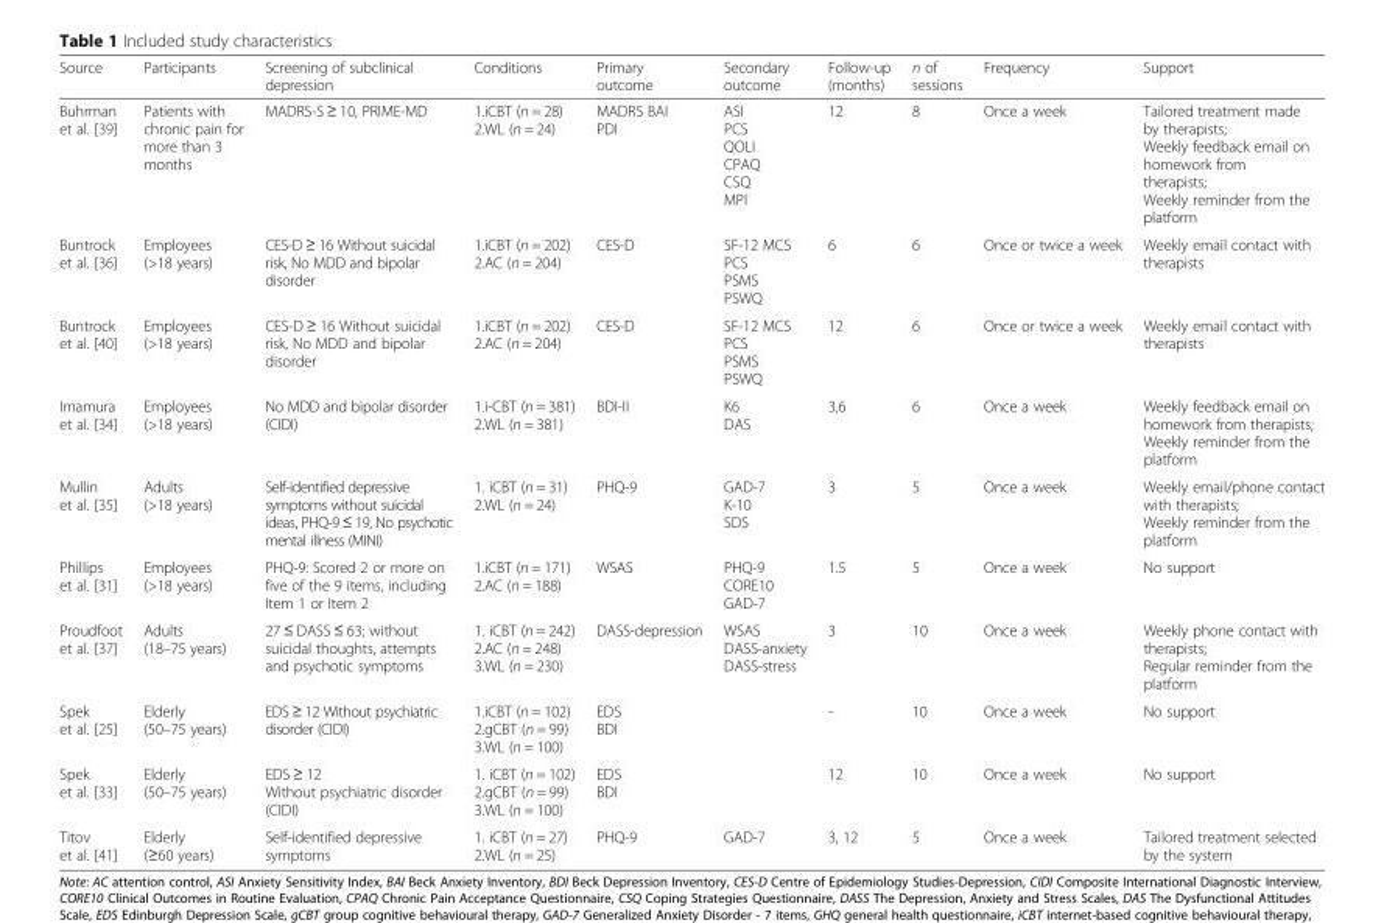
<table><thead><tr><td>Source</td><td>Participants</td><td>Screening of subclinical depression</td><td>Conditions</td><td>Primary outcome</td><td>Secondary outcome</td><td>Follow-up (months)</td><td>n of sessions</td><td>Frequency</td><td>Support</td></tr></thead><tbody><tr><td>Buhrman et al. [39]</td><td>Patients with chronic pain for more than 3 months</td><td>MADRS-S ≥ 10, PRIME-MD</td><td>1.iCBT (n = 28) 2.WL (n = 24)</td><td>MADRS BAI PDI</td><td>ASI PCS QOLI CPAQ CSQ MPI</td><td>12</td><td>8</td><td>Once a week</td><td>Tailored treatment made by therapists; Weekly feedback email on homework from therapists; Weekly reminder from the platform</td></tr><tr><td>Buntrock et al. [36]</td><td>Employees (&gt;18 years)</td><td>CES-D ≥ 16 Without suicidal risk, No MDD and bipolar disorder</td><td>1.iCBT (n = 202) 2.AC (n = 204)</td><td>CES-D</td><td>SF-12 MCS PCS PSMS PSWQ</td><td>6</td><td>6</td><td>Once or twice a week</td><td>Weekly email contact with therapists</td></tr><tr><td>Buntrock et al. [40]</td><td>Employees (&gt;18 years)</td><td>CES-D ≥ 16 Without suicidal risk, No MDD and bipolar disorder</td><td>1.iCBT (n = 202) 2.AC (n = 204)</td><td>CES-D</td><td>SF-12 MCS PCS PSMS PSWQ</td><td>12</td><td>6</td><td>Once or twice a week</td><td>Weekly email contact with therapists</td></tr><tr><td>Imamura et al. [34]</td><td>Employees (&gt;18 years)</td><td>No MDD and bipolar disorder (CIDI)</td><td>1.i-CBT (n = 381) 2.WL (n = 381)</td><td>BDI-II</td><td>K6 DAS</td><td>3,6</td><td>6</td><td>Once a week</td><td>Weekly feedback email on homework from therapists; Weekly reminder from the platform</td></tr><tr><td>Mullin et al. [35]</td><td>Adults (&gt;18 years)</td><td>Self-identified depressive symptoms without suicidal ideas, PHQ-9 ≤ 19, No psychotic mental illness (MINI)</td><td>1. iCBT (n = 31) 2.WL (n = 24)</td><td>PHQ-9</td><td>GAD-7 K-10 SDS</td><td>3</td><td>5</td><td>Once a week</td><td>Weekly email/phone contact with therapists; Weekly reminder from the platform</td></tr><tr><td>Phillips et al. [31]</td><td>Employees (&gt;18 years)</td><td>PHQ-9: Scored 2 or more on five of the 9 items, including Item 1 or Item 2</td><td>1.iCBT (n = 171) 2.AC (n = 188)</td><td>WSAS</td><td>PHQ-9 CORE10 GAD-7</td><td>1.5</td><td>5</td><td>Once a week</td><td>No support</td></tr><tr><td>Proudfoot et al. [37]</td><td>Adults (18–75 years)</td><td>27 ≤ DASS ≤ 63; without suicidal thoughts, attempts and psychotic symptoms</td><td>1. iCBT (n = 242) 2.AC (n = 248) 3.WL (n = 230)</td><td>DASS-depression</td><td>WSAS DASS-anxiety DASS-stress</td><td>3</td><td>10</td><td>Once a week</td><td>Weekly phone contact with therapists; Regular reminder from the platform</td></tr><tr><td>Spek et al. [25]</td><td>Elderly (50–75 years)</td><td>EDS ≥ 12 Without psychiatric disorder (CIDI)</td><td>1.iCBT (n = 102) 2.gCBT (n = 99) 3.WL (n = 100)</td><td>EDS BDI</td><td></td><td>-</td><td>10</td><td>Once a week</td><td>No support</td></tr><tr><td>Spek et al. [33]</td><td>Elderly (50–75 years)</td><td>EDS ≥ 12 Without psychiatric disorder (CIDI)</td><td>1. iCBT (n = 102) 2.gCBT (n = 99) 3.WL (n = 100)</td><td>EDS BDI</td><td></td><td>12</td><td>10</td><td>Once a week</td><td>No support</td></tr><tr><td>Titov et al. [41]</td><td>Elderly (≥60 years)</td><td>Self-identified depressive symptoms</td><td>1. iCBT (n = 27) 2.WL (n = 25)</td><td>PHQ-9</td><td>GAD-7</td><td>3, 12</td><td>5</td><td>Once a week</td><td>Tailored treatment selected by the system</td></tr></tbody></table>